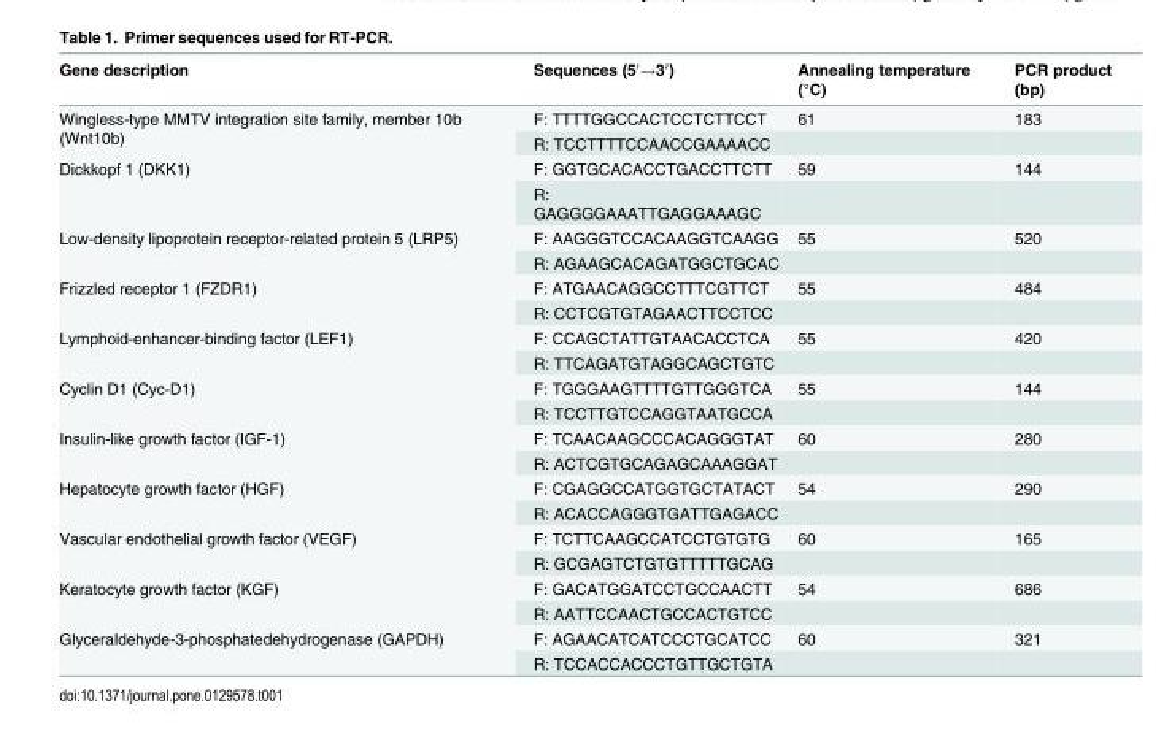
<table><thead><tr><td>Gene description</td><td>Sequences (5′→3′)</td><td>Annealing temperature (°C)</td><td>PCR product (bp)</td></tr></thead><tbody><tr><td rowspan="2">Wingless-type MMTV integration site family, member 10b (Wnt10b)</td><td>F: TTTTGGCCACTCCTCTTCCT</td><td>61</td><td>183</td></tr><tr><td>R: TCCTTTTCCAACCGAAAACC</td><td></td><td></td></tr><tr><td rowspan="2">Dickkopf 1 (DKK1)</td><td>F: GGTGCACACCTGACCTTCTT</td><td>59</td><td>144</td></tr><tr><td>R: GAGGGGAAATTGAGGAAAGC</td><td></td><td></td></tr><tr><td rowspan="2">Low-density lipoprotein receptor-related protein 5 (LRP5)</td><td>F: AAGGGTCCACAAGGTCAAGG</td><td>55</td><td>520</td></tr><tr><td>R: AGAAGCACAGATGGCTGCAC</td><td></td><td></td></tr><tr><td rowspan="2">Frizzled receptor 1 (FZDR1)</td><td>F: ATGAACAGGCCTTTCGTTCT</td><td>55</td><td>484</td></tr><tr><td>R: CCTCGTGTAGAACTTCCTCC</td><td></td><td></td></tr><tr><td rowspan="2">Lymphoid-enhancer-binding factor (LEF1)</td><td>F: CCAGCTATTGTAACACCTCA</td><td>55</td><td>420</td></tr><tr><td>R: TTCAGATGTAGGCAGCTGTC</td><td></td><td></td></tr><tr><td rowspan="2">Cyclin D1 (Cyc-D1)</td><td>F: TGGGAAGTTTTGTTGGGTCA</td><td>55</td><td>144</td></tr><tr><td>R: TCCTTGTCCAGGTAATGCCA</td><td></td><td></td></tr><tr><td rowspan="2">Insulin-like growth factor (IGF-1)</td><td>F: TCAACAAGCCCACAGGGTAT</td><td>60</td><td>280</td></tr><tr><td>R: ACTCGTGCAGAGCAAAGGAT</td><td></td><td></td></tr><tr><td rowspan="2">Hepatocyte growth factor (HGF)</td><td>F: CGAGGCCATGGTGCTATACT</td><td>54</td><td>290</td></tr><tr><td>R: ACACCAGGGTGATTGAGACC</td><td></td><td></td></tr><tr><td rowspan="2">Vascular endothelial growth factor (VEGF)</td><td>F: TCTTCAAGCCATCCTGTGTG</td><td>60</td><td>165</td></tr><tr><td>R: GCGAGTCTGTGTTTTTGCAG</td><td></td><td></td></tr><tr><td rowspan="2">Keratocyte growth factor (KGF)</td><td>F: GACATGGATCCTGCCAACTT</td><td>54</td><td>686</td></tr><tr><td>R: AATTCCAACTGCCACTGTCC</td><td></td><td></td></tr><tr><td rowspan="2">Glyceraldehyde-3-phosphatedehydrogenase (GAPDH)</td><td>F: AGAACATCATCCCTGCATCC</td><td>60</td><td>321</td></tr><tr><td>R: TCCACCACCCTGTTGCTGTA</td><td></td><td></td></tr></tbody></table>